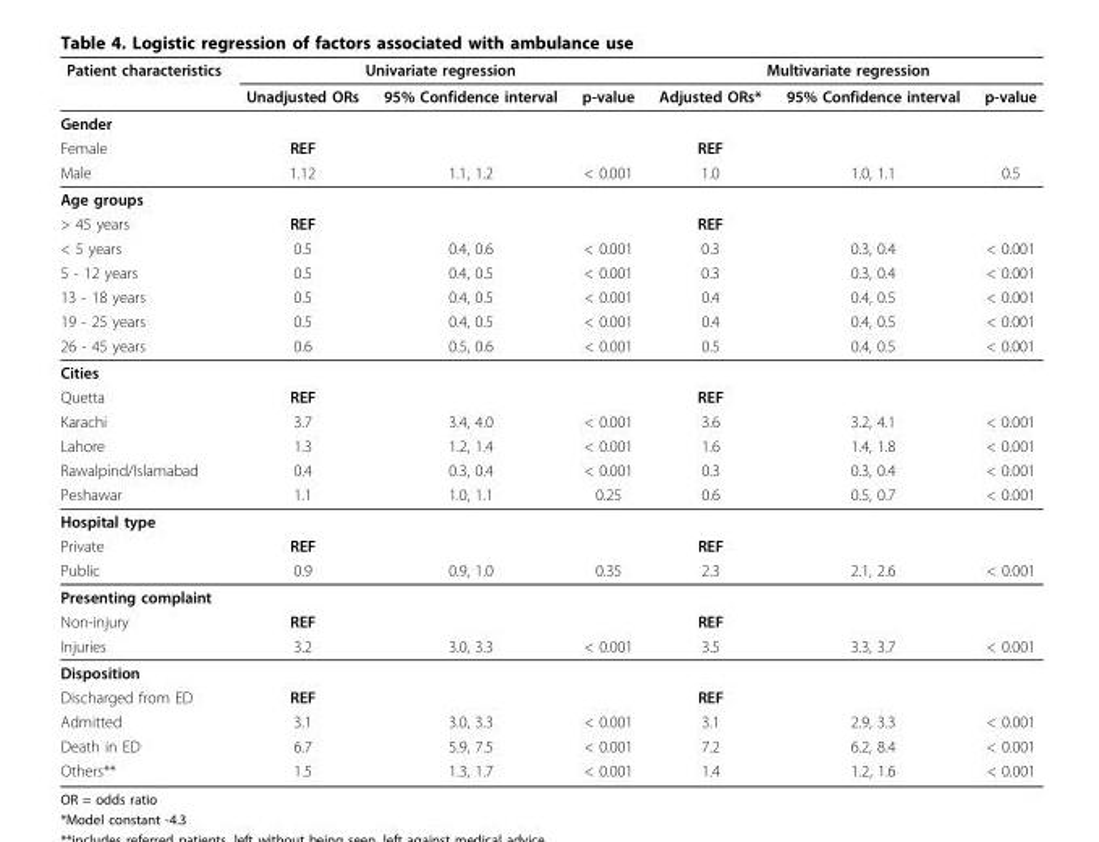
<table><thead><tr><td rowspan="2">Patient characteristics</td><td colspan="3">Univariate regression</td><td colspan="3">Multivariate regression</td></tr><tr><td>Unadjusted ORs</td><td>95% Confidence interval</td><td>p-value</td><td>Adjusted ORs*</td><td>95% Confidence interval</td><td>p-value</td></tr></thead><tbody><tr><td colspan="7">Gender</td></tr><tr><td>Female</td><td>REF</td><td></td><td></td><td>REF</td><td></td><td></td></tr><tr><td>Male</td><td>1.12</td><td>1.1, 1.2</td><td>&lt; 0.001</td><td>1.0</td><td>1.0, 1.1</td><td>0.5</td></tr><tr><td colspan="7">Age groups</td></tr><tr><td>&gt; 45 years</td><td>REF</td><td></td><td></td><td>REF</td><td></td><td></td></tr><tr><td>&lt; 5 years</td><td>0.5</td><td>0.4, 0.6</td><td>&lt; 0.001</td><td>0.3</td><td>0.3, 0.4</td><td>&lt; 0.001</td></tr><tr><td>5 - 12 years</td><td>0.5</td><td>0.4, 0.5</td><td>&lt; 0.001</td><td>0.3</td><td>0.3, 0.4</td><td>&lt; 0.001</td></tr><tr><td>13 - 18 years</td><td>0.5</td><td>0.4, 0.5</td><td>&lt; 0.001</td><td>0.4</td><td>0.4, 0.5</td><td>&lt; 0.001</td></tr><tr><td>19 - 25 years</td><td>0.5</td><td>0.4, 0.5</td><td>&lt; 0.001</td><td>0.4</td><td>0.4, 0.5</td><td>&lt; 0.001</td></tr><tr><td>26 - 45 years</td><td>0.6</td><td>0.5, 0.6</td><td>&lt; 0.001</td><td>0.5</td><td>0.4, 0.5</td><td>&lt; 0.001</td></tr><tr><td colspan="7">Cities</td></tr><tr><td>Quetta</td><td>REF</td><td></td><td></td><td>REF</td><td></td><td></td></tr><tr><td>Karachi</td><td>3.7</td><td>3.4, 4.0</td><td>&lt; 0.001</td><td>3.6</td><td>3.2, 4.1</td><td>&lt; 0.001</td></tr><tr><td>Lahore</td><td>1.3</td><td>1.2, 1.4</td><td>&lt; 0.001</td><td>1.6</td><td>1.4, 1.8</td><td>&lt; 0.001</td></tr><tr><td>Rawalpind/Islamabad</td><td>0.4</td><td>0.3, 0.4</td><td>&lt; 0.001</td><td>0.3</td><td>0.3, 0.4</td><td>&lt; 0.001</td></tr><tr><td>Peshawar</td><td>1.1</td><td>1.0, 1.1</td><td>0.25</td><td>0.6</td><td>0.5, 0.7</td><td>&lt; 0.001</td></tr><tr><td colspan="7">Hospital type</td></tr><tr><td>Private</td><td>REF</td><td></td><td></td><td>REF</td><td></td><td></td></tr><tr><td>Public</td><td>0.9</td><td>0.9, 1.0</td><td>0.35</td><td>2.3</td><td>2.1, 2.6</td><td>&lt; 0.001</td></tr><tr><td colspan="7">Presenting complaint</td></tr><tr><td>Non-injury</td><td>REF</td><td></td><td></td><td>REF</td><td></td><td></td></tr><tr><td>Injuries</td><td>3.2</td><td>3.0, 3.3</td><td>&lt; 0.001</td><td>3.5</td><td>3.3, 3.7</td><td>&lt; 0.001</td></tr><tr><td colspan="7">Disposition</td></tr><tr><td>Discharged from ED</td><td>REF</td><td></td><td></td><td>REF</td><td></td><td></td></tr><tr><td>Admitted</td><td>3.1</td><td>3.0, 3.3</td><td>&lt; 0.001</td><td>3.1</td><td>2.9, 3.3</td><td>&lt; 0.001</td></tr><tr><td>Death in ED</td><td>6.7</td><td>5.9, 7.5</td><td>&lt; 0.001</td><td>7.2</td><td>6.2, 8.4</td><td>&lt; 0.001</td></tr><tr><td>Others**</td><td>1.5</td><td>1.3, 1.7</td><td>&lt; 0.001</td><td>1.4</td><td>1.2, 1.6</td><td>&lt; 0.001</td></tr></tbody></table>